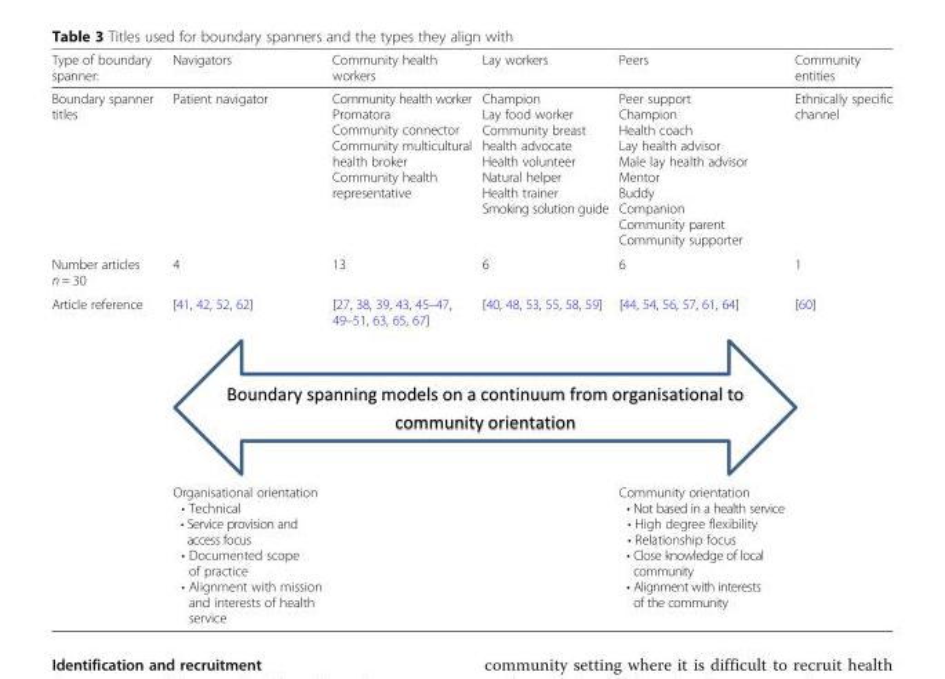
<table><thead><tr><td>Type of boundary spanner:</td><td>Navigators</td><td>Community health workers</td><td>Lay workers</td><td>Peers</td><td>Community entities</td></tr></thead><tbody><tr><td>Boundary spanner titles</td><td>Patient navigator</td><td>Community health worker Promatora Community connector Community multicultural health broker Community health representative</td><td>Champion Lay food worker Community breast health advocate Health volunteer Natural helper Health trainer Smoking solution guide</td><td>Peer support Champion Health coach Lay health advisor Male lay health advisor Mentor Buddy Companion Community parent Community supporter</td><td>Ethnically specific channel</td></tr><tr><td>Number articles n = 30</td><td>4</td><td>13</td><td>6</td><td>6</td><td>1</td></tr><tr><td rowspan="2">Article reference</td><td>[41, 42, 52, 62]</td><td>[27, 38, 39, 43, 45–47, 49–51, 63, 65, 67]</td><td>[40, 48, 53, 55, 58, 59]</td><td>[44, 54, 56, 57, 61, 64]</td><td>[60]</td></tr><tr><td>Organisational orientation • Technical • Service provision and access focus • Documented scope of practice • Alignment with mission and interests of health service</td><td></td><td></td><td>Community orientation • Not based in a health service • High degree flexibility • Relationship focus • Close knowledge of local community • Alignment with interests of the community</td><td></td></tr></tbody></table>